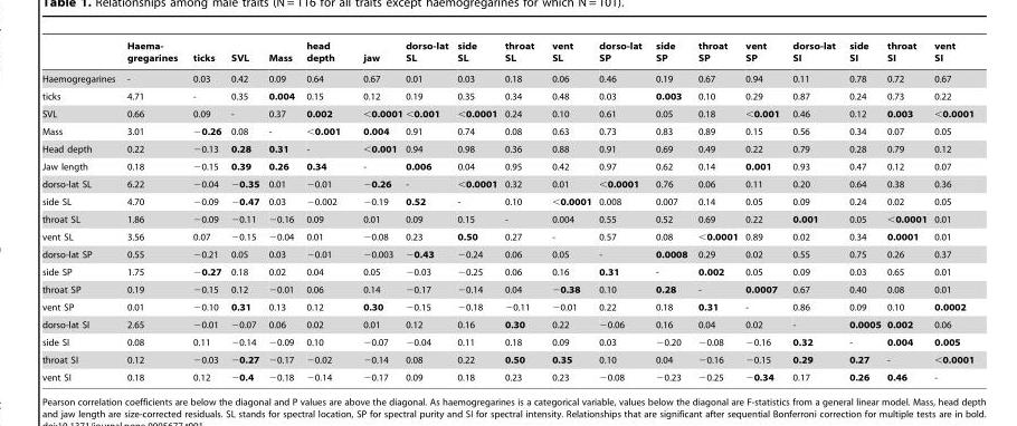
<table><thead><tr><td></td><td>Haema- gregarines</td><td>ticks</td><td>SVL</td><td>Mass</td><td>head depth</td><td>jaw</td><td>dorso-lat SL</td><td>side SL</td><td>throat SL</td><td>vent SL</td><td>dorso-lat SP</td><td>side SP</td><td>throat SP</td><td>vent SP</td><td>dorso-lat SI</td><td>side SI</td><td>throat SI</td><td>vent SI</td></tr></thead><tbody><tr><td>Haemogregarines</td><td>-</td><td>0.03</td><td>0.42</td><td>0.09</td><td>0.64</td><td>0.67</td><td>0.01</td><td>0.03</td><td>0.18</td><td>0.06</td><td>0.46</td><td>0.19</td><td>0.67</td><td>0.94</td><td>0.11</td><td>0.78</td><td>0.72</td><td>0.67</td></tr><tr><td>ticks</td><td>4.71</td><td>-</td><td>0.35</td><td>0.004</td><td>0.15</td><td>0.12</td><td>0.19</td><td>0.35</td><td>0.34</td><td>0.48</td><td>0.03</td><td>0.003</td><td>0.10</td><td>0.29</td><td>0.87</td><td>0.24</td><td>0.73</td><td>0.22</td></tr><tr><td>SVL</td><td>0.66</td><td>0.09</td><td>-</td><td>0.37</td><td>0.002</td><td>&lt;0.0001</td><td>&lt;0.001</td><td>&lt;0.0001</td><td>0.24</td><td>0.10</td><td>0.61</td><td>0.05</td><td>0.18</td><td>&lt;0.001</td><td>0.46</td><td>0.12</td><td>0.003</td><td>&lt;0.0001</td></tr><tr><td>Mass</td><td>3.01</td><td>−0.26</td><td>0.08</td><td>-</td><td>&lt;0.001</td><td>0.004</td><td>0.91</td><td>0.74</td><td>0.08</td><td>0.63</td><td>0.73</td><td>0.83</td><td>0.89</td><td>0.15</td><td>0.56</td><td>0.34</td><td>0.07</td><td>0.05</td></tr><tr><td>Head depth</td><td>0.22</td><td>−0.13</td><td>0.28</td><td>0.31</td><td>-</td><td>&lt;0.001</td><td>0.94</td><td>0.98</td><td>0.36</td><td>0.88</td><td>0.91</td><td>0.69</td><td>0.49</td><td>0.22</td><td>0.79</td><td>0.28</td><td>0.79</td><td>0.12</td></tr><tr><td>Jaw length</td><td>0.18</td><td>−0.15</td><td>0.39</td><td>0.26</td><td>0.34</td><td>-</td><td>0.006</td><td>0.04</td><td>0.95</td><td>0.42</td><td>0.97</td><td>0.62</td><td>0.14</td><td>0.001</td><td>0.93</td><td>0.47</td><td>0.12</td><td>0.07</td></tr><tr><td>dorso-lat SL</td><td>6.22</td><td>−0.04</td><td>−0.35</td><td>0.01</td><td>−0.01</td><td>−0.26</td><td>-</td><td>&lt;0.0001</td><td>0.32</td><td>0.01</td><td>&lt;0.0001</td><td>0.76</td><td>0.06</td><td>0.11</td><td>0.20</td><td>0.64</td><td>0.38</td><td>0.36</td></tr><tr><td>side SL</td><td>4.70</td><td>−0.09</td><td>−0.47</td><td>0.03</td><td>−0.002</td><td>−0.19</td><td>0.52</td><td>-</td><td>0.10</td><td>&lt;0.0001</td><td>0.008</td><td>0.007</td><td>0.14</td><td>0.05</td><td>0.09</td><td>0.24</td><td>0.02</td><td>0.05</td></tr><tr><td>throat SL</td><td>1.86</td><td>−0.09</td><td>−0.11</td><td>−0.16</td><td>0.09</td><td>0.01</td><td>0.09</td><td>0.15</td><td>-</td><td>0.004</td><td>0.55</td><td>0.52</td><td>0.69</td><td>0.22</td><td>0.001</td><td>0.05</td><td>&lt;0.0001</td><td>0.01</td></tr><tr><td>vent SL</td><td>3.56</td><td>0.07</td><td>−0.15</td><td>−0.04</td><td>0.01</td><td>−0.08</td><td>0.23</td><td>0.50</td><td>0.27</td><td>-</td><td>0.57</td><td>0.08</td><td>&lt;0.0001</td><td>0.89</td><td>0.02</td><td>0.34</td><td>0.0001</td><td>0.01</td></tr><tr><td>dorso-lat SP</td><td>0.55</td><td>−0.21</td><td>0.05</td><td>0.03</td><td>−0.01</td><td>−0.003</td><td>−0.43</td><td>−0.24</td><td>0.06</td><td>0.05</td><td>-</td><td>0.0008</td><td>0.29</td><td>0.02</td><td>0.55</td><td>0.75</td><td>0.26</td><td>0.37</td></tr><tr><td>side SP</td><td>1.75</td><td>−0.27</td><td>0.18</td><td>0.02</td><td>0.04</td><td>0.05</td><td>−0.03</td><td>−0.25</td><td>0.06</td><td>0.16</td><td>0.31</td><td>-</td><td>0.002</td><td>0.05</td><td>0.09</td><td>0.03</td><td>0.65</td><td>0.01</td></tr><tr><td>throat SP</td><td>0.19</td><td>−0.15</td><td>0.12</td><td>−0.01</td><td>0.06</td><td>0.14</td><td>−0.17</td><td>−0.14</td><td>0.04</td><td>−0.38</td><td>0.10</td><td>0.28</td><td>-</td><td>0.0007</td><td>0.67</td><td>0.40</td><td>0.08</td><td>0.01</td></tr><tr><td>vent SP</td><td>0.01</td><td>−0.10</td><td>0.31</td><td>0.13</td><td>0.12</td><td>0.30</td><td>−0.15</td><td>−0.18</td><td>−0.11</td><td>−0.01</td><td>0.22</td><td>0.18</td><td>0.31</td><td>-</td><td>0.86</td><td>0.09</td><td>0.10</td><td>0.0002</td></tr><tr><td>dorso-lat SI</td><td>2.65</td><td>−0.01</td><td>−0.07</td><td>0.06</td><td>0.02</td><td>0.01</td><td>0.12</td><td>0.16</td><td>0.30</td><td>0.22</td><td>−0.06</td><td>0.16</td><td>0.04</td><td>0.02</td><td>-</td><td>0.0005</td><td>0.002</td><td>0.06</td></tr><tr><td>side SI</td><td>0.08</td><td>0.11</td><td>−0.14</td><td>−0.09</td><td>0.10</td><td>−0.07</td><td>−0.04</td><td>0.11</td><td>0.18</td><td>0.09</td><td>0.03</td><td>−0.20</td><td>−0.08</td><td>−0.16</td><td>0.32</td><td>-</td><td>0.004</td><td>0.005</td></tr><tr><td>throat SI</td><td>0.12</td><td>−0.03</td><td>−0.27</td><td>−0.17</td><td>−0.02</td><td>−0.14</td><td>0.08</td><td>0.22</td><td>0.50</td><td>0.35</td><td>0.10</td><td>0.04</td><td>−0.16</td><td>−0.15</td><td>0.29</td><td>0.27</td><td>-</td><td>&lt;0.0001</td></tr><tr><td>vent SI</td><td>0.18</td><td>0.12</td><td>−0.4</td><td>−0.18</td><td>−0.14</td><td>−0.17</td><td>0.09</td><td>0.18</td><td>0.23</td><td>0.23</td><td>−0.08</td><td>−0.23</td><td>−0.25</td><td>−0.34</td><td>0.17</td><td>0.26</td><td>0.46</td><td>-</td></tr></tbody></table>